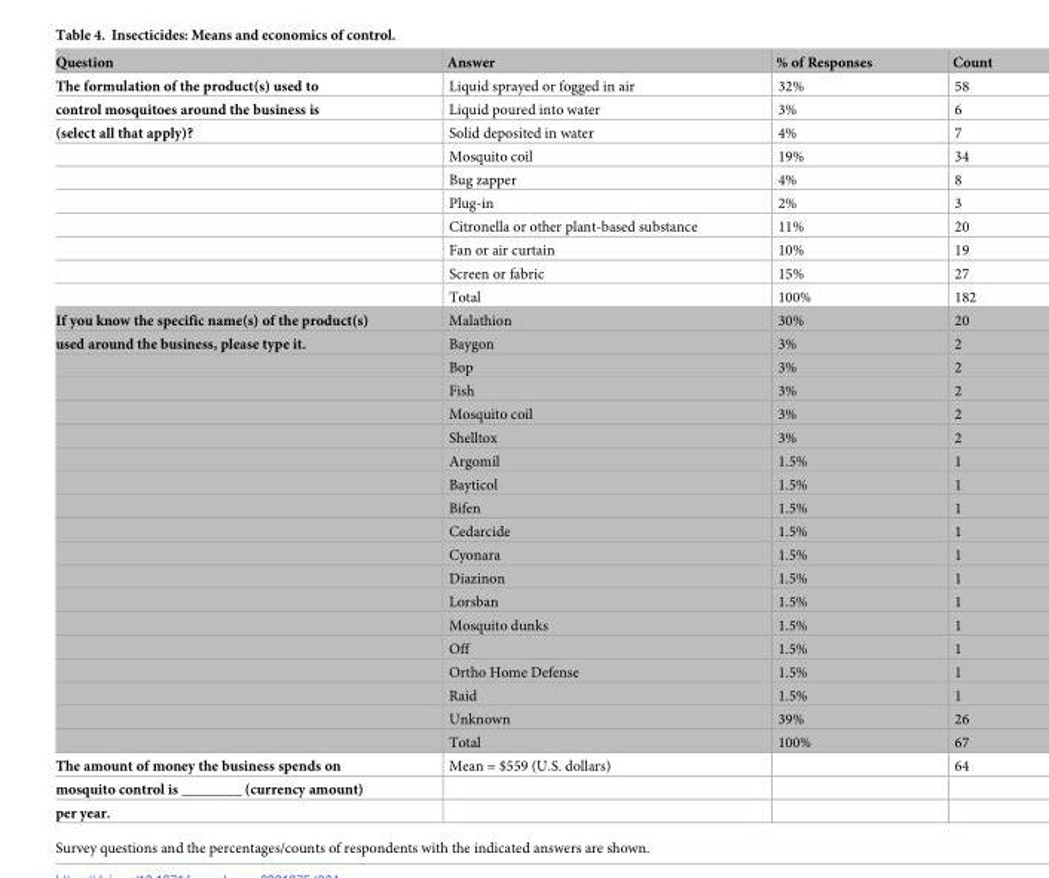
<table><thead><tr><td>Question</td><td>Answer</td><td>% of Responses</td><td>Count</td></tr></thead><tbody><tr><td>The formulation of the product(s) used to</td><td>Liquid sprayed or fogged in air</td><td>32%</td><td>58</td></tr><tr><td>control mosquitoes around the business is</td><td>Liquid poured into water</td><td>3%</td><td>6</td></tr><tr><td rowspan="8">(select all that apply)?</td><td>Solid deposited in water</td><td>4%</td><td>7</td></tr><tr><td>Mosquito coil</td><td>19%</td><td>34</td></tr><tr><td>Bug zapper</td><td>4%</td><td>8</td></tr><tr><td>Plug-in</td><td>2%</td><td>3</td></tr><tr><td>Citronella or other plant-based substance</td><td>11%</td><td>20</td></tr><tr><td>Fan or air curtain</td><td>10%</td><td>19</td></tr><tr><td>Screen or fabric</td><td>15%</td><td>27</td></tr><tr><td>Total</td><td>100%</td><td>182</td></tr><tr><td>If you know the specific name(s) of the product(s)</td><td>Malathion</td><td>30%</td><td>20</td></tr><tr><td rowspan="18">used around the business, please type it.</td><td>Baygon</td><td>3%</td><td>2</td></tr><tr><td>Bop</td><td>3%</td><td>2</td></tr><tr><td>Fish</td><td>3%</td><td>2</td></tr><tr><td>Mosquito coil</td><td>3%</td><td>2</td></tr><tr><td>Shelltox</td><td>3%</td><td>2</td></tr><tr><td>Argomil</td><td>1.5%</td><td>1</td></tr><tr><td>Bayticol</td><td>1.5%</td><td>1</td></tr><tr><td>Bifen</td><td>1.5%</td><td>1</td></tr><tr><td>Cedarcide</td><td>1.5%</td><td>1</td></tr><tr><td>Cyonara</td><td>1.5%</td><td>1</td></tr><tr><td>Diazinon</td><td>1.5%</td><td>1</td></tr><tr><td>Lorsban</td><td>1.5%</td><td>1</td></tr><tr><td>Mosquito dunks</td><td>1.5%</td><td>1</td></tr><tr><td>Off</td><td>1.5%</td><td>1</td></tr><tr><td>Ortho Home Defense</td><td>1.5%</td><td>1</td></tr><tr><td>Raid</td><td>1.5%</td><td>1</td></tr><tr><td>Unknown</td><td>39%</td><td>26</td></tr><tr><td>Total</td><td>100%</td><td>67</td></tr><tr><td>The amount of money the business spends on</td><td>Mean = $559 (U.S. dollars)</td><td></td><td>64</td></tr><tr><td colspan="4">mosquito control is ________ (currency amount)</td></tr><tr><td>per year.</td><td></td><td></td><td></td></tr></tbody></table>